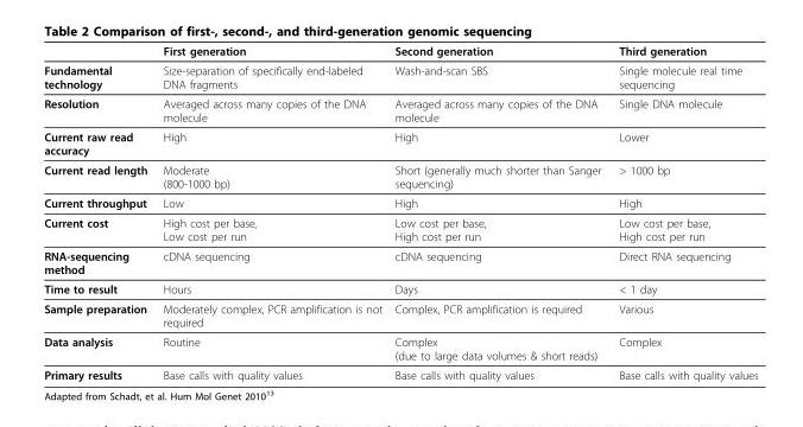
<table><thead><tr><td></td><td>First generation</td><td>Second generation</td><td>Third generation</td></tr></thead><tbody><tr><td>Fundamental technology</td><td>Size-separation of specifically end-labeled DNA fragments</td><td>Wash-and-scan SBS</td><td>Single molecule real time sequencing</td></tr><tr><td>Resolution</td><td>Averaged across many copies of the DNA molecule</td><td>Averaged across many copies of the DNA molecule</td><td>Single DNA molecule</td></tr><tr><td>Current raw read accuracy</td><td>High</td><td>High</td><td>Lower</td></tr><tr><td>Current read length</td><td>Moderate (800-1000 bp)</td><td>Short (generally much shorter than Sanger sequencing)</td><td>&gt; 1000 bp</td></tr><tr><td>Current throughput</td><td>Low</td><td>High</td><td>High</td></tr><tr><td>Current cost</td><td>High cost per base, Low cost per run</td><td>Low cost per base, High cost per run</td><td>Low cost per base, High cost per run</td></tr><tr><td>RNA-sequencing method</td><td>cDNA sequencing</td><td>cDNA sequencing</td><td>Direct RNA sequencing</td></tr><tr><td>Time to result</td><td>Hours</td><td>Days</td><td>&lt; 1 day</td></tr><tr><td>Sample preparation</td><td>Moderately complex, PCR amplification is not required</td><td>Complex, PCR amplification is required</td><td>Various</td></tr><tr><td>Data analysis</td><td>Routine</td><td>Complex (due to large data volumes &amp; short reads)</td><td>Complex</td></tr><tr><td>Primary results</td><td>Base calls with quality values</td><td>Base calls with quality values</td><td>Base calls with quality values</td></tr></tbody></table>